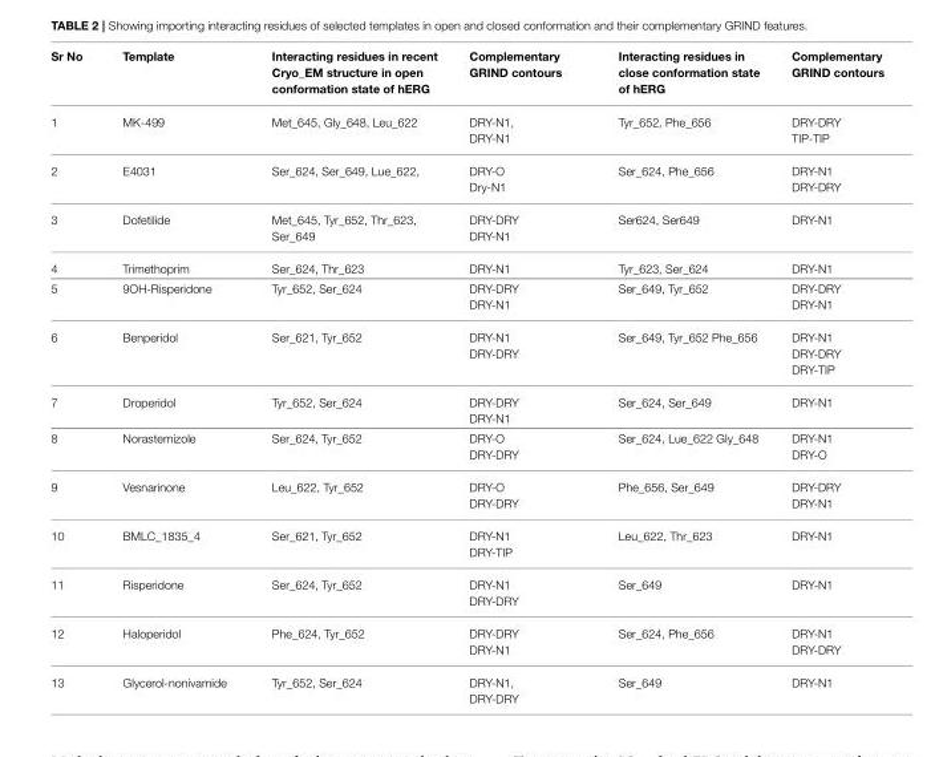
<table><thead><tr><td>Sr No</td><td>Template</td><td>Interacting residues in recent Cryo_EM structure in open conformation state of hERG</td><td>Complementary GRIND contours</td><td>Interacting residues in close conformation state of hERG</td><td>Complementary GRIND contours</td></tr></thead><tbody><tr><td>1</td><td>MK-499</td><td>Met_645, Gly_648, Leu_622</td><td>DRY-N1, DRY-N1</td><td>Tyr_652, Phe_656</td><td>DRY-DRY TIP-TIP</td></tr><tr><td>2</td><td>E4031</td><td>Ser_624, Ser_649, Lue_622,</td><td>DRY-O Dry-N1</td><td>Ser_624, Phe_656</td><td>DRY-N1 DRY-DRY</td></tr><tr><td>3</td><td>Dofetilide</td><td>Met_645, Tyr_652, Thr_623, Ser_649</td><td>DRY-DRY DRY-N1</td><td>Ser624, Ser649</td><td>DRY-N1</td></tr><tr><td>4</td><td>Trimethoprim</td><td>Ser_624, Thr_623</td><td>DRY-N1</td><td>Tyr_623, Ser_624</td><td>DRY-N1</td></tr><tr><td>5</td><td>9OH-Risperidone</td><td>Tyr_652, Ser_624</td><td>DRY-DRY DRY-N1</td><td>Ser_649, Tyr_652</td><td>DRY-DRY DRY-N1</td></tr><tr><td>6</td><td>Benperidol</td><td>Ser_621, Tyr_652</td><td>DRY-N1 DRY-DRY</td><td>Ser_649, Tyr_652 Phe_656</td><td>DRY-N1 DRY-DRY DRY-TIP</td></tr><tr><td>7</td><td>Droperidol</td><td>Tyr_652, Ser_624</td><td>DRY-DRY DRY-N1</td><td>Ser_624, Ser_649</td><td>DRY-N1</td></tr><tr><td>8</td><td>Norastemizole</td><td>Ser_624, Tyr_652</td><td>DRY-O DRY-DRY</td><td>Ser_624, Lue_622 Gly_648</td><td>DRY-N1 DRY-O</td></tr><tr><td>9</td><td>Vesnarinone</td><td>Leu_622, Tyr_652</td><td>DRY-O DRY-DRY</td><td>Phe_656, Ser_649</td><td>DRY-DRY DRY-N1</td></tr><tr><td>10</td><td>BMLC_1835_4</td><td>Ser_621, Tyr_652</td><td>DRY-N1 DRY-TIP</td><td>Leu_622, Thr_623</td><td>DRY-N1</td></tr><tr><td>11</td><td>Risperidone</td><td>Ser_624, Tyr_652</td><td>DRY-N1 DRY-DRY</td><td>Ser_649</td><td>DRY-N1</td></tr><tr><td>12</td><td>Haloperidol</td><td>Phe_624, Tyr_652</td><td>DRY-DRY DRY-N1</td><td>Ser_624, Phe_656</td><td>DRY-N1 DRY-DRY</td></tr><tr><td>13</td><td>Glycerol-nonivamide</td><td>Tyr_652, Ser_624</td><td>DRY-N1, DRY-DRY</td><td>Ser_649</td><td>DRY-N1</td></tr></tbody></table>